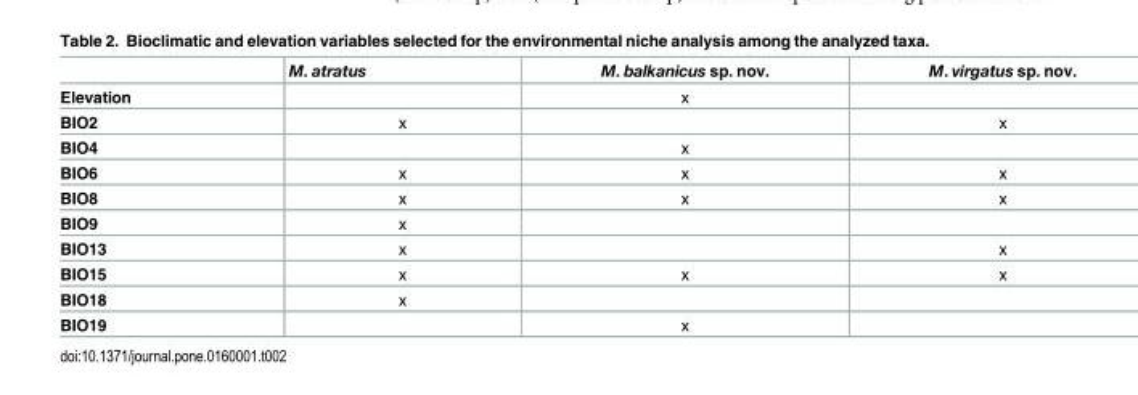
<table><thead><tr><td></td><td>M. atratus</td><td>M. balkanicus sp. nov.</td><td>M. virgatus sp. nov.</td></tr></thead><tbody><tr><td>Elevation</td><td></td><td>x</td><td></td></tr><tr><td>BIO2</td><td>x</td><td></td><td>x</td></tr><tr><td>BIO4</td><td></td><td>x</td><td></td></tr><tr><td>BIO6</td><td>x</td><td>x</td><td>x</td></tr><tr><td>BIO8</td><td>x</td><td>x</td><td>x</td></tr><tr><td>BIO9</td><td>x</td><td></td><td></td></tr><tr><td>BIO13</td><td>x</td><td></td><td>x</td></tr><tr><td>BIO15</td><td>x</td><td>x</td><td>x</td></tr><tr><td>BIO18</td><td>x</td><td></td><td></td></tr><tr><td>BIO19</td><td></td><td>x</td><td></td></tr></tbody></table>